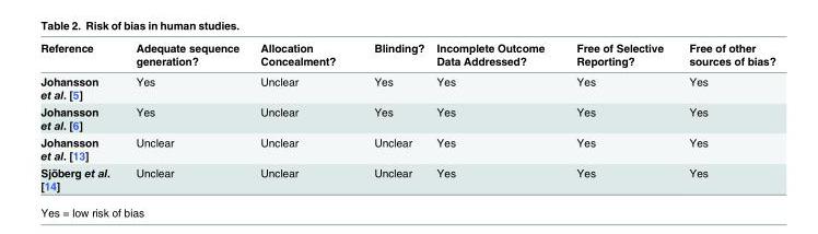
<table><thead><tr><td>Reference</td><td>Adequate sequence generation?</td><td>Allocation Concealment?</td><td>Blinding?</td><td>Incomplete Outcome Data Addressed?</td><td>Free of Selective Reporting?</td><td>Free of other sources of bias?</td></tr></thead><tbody><tr><td>Johansson et al. [5]</td><td>Yes</td><td>Unclear</td><td>Yes</td><td>Yes</td><td>Yes</td><td>Yes</td></tr><tr><td>Johansson et al. [6]</td><td>Yes</td><td>Unclear</td><td>Yes</td><td>Yes</td><td>Yes</td><td>Yes</td></tr><tr><td>Johansson et al. [13]</td><td>Unclear</td><td>Unclear</td><td>Unclear</td><td>Yes</td><td>Yes</td><td>Yes</td></tr><tr><td>Sjöberg et al. [14]</td><td>Unclear</td><td>Unclear</td><td>Unclear</td><td>Yes</td><td>Yes</td><td>Yes</td></tr></tbody></table>